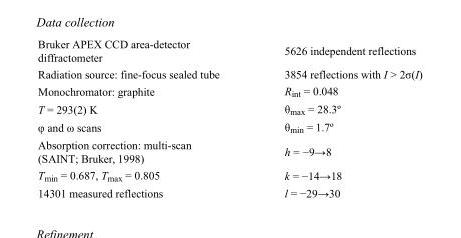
<table><tbody><tr><td>Bruker APEX CCD area-detector diffractometer</td><td>5626 independent reflections</td></tr><tr><td>Radiation source: fine-focus sealed tube</td><td>3854 reflections with I &gt; 2σ(I)</td></tr><tr><td>Monochromator: graphite</td><td>R<sub>int</sub> = 0.048</td></tr><tr><td>T = 293(2) K</td><td>θ<sub>max</sub> = 28.3º</td></tr><tr><td>φ and ω scans</td><td>θ<sub>min</sub> = 1.7º</td></tr><tr><td>Absorption correction: multi-scan (SAINT; Bruker, 1998)</td><td>h = −9→8</td></tr><tr><td>T<sub>min</sub> = 0.687, T<sub>max</sub> = 0.805</td><td>k = −14→18</td></tr><tr><td>14301 measured reflections</td><td>l = −29→30</td></tr></tbody></table>